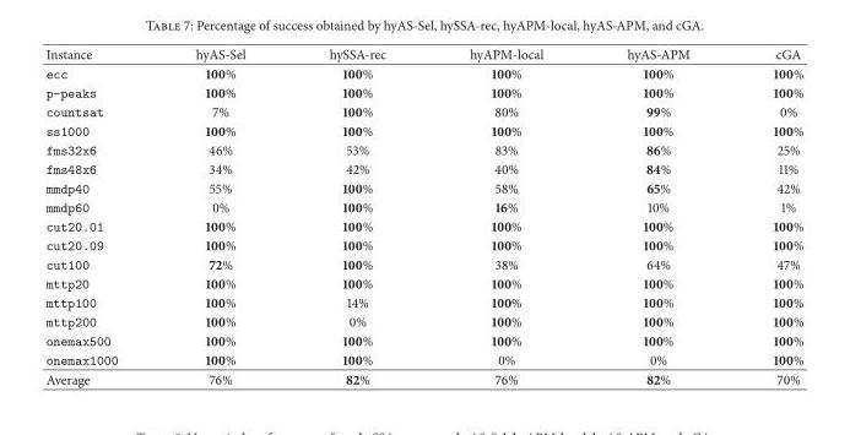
<table><thead><tr><td>Instance</td><td>hyAS-Sel</td><td>hySSA-rec</td><td>hyAPM-local</td><td>hyAS-APM</td><td>cGA</td></tr></thead><tbody><tr><td>ecc</td><td>100%</td><td>100%</td><td>100%</td><td>100%</td><td>100%</td></tr><tr><td>p-peaks</td><td>100%</td><td>100%</td><td>100%</td><td>100%</td><td>100%</td></tr><tr><td>countsat</td><td>7%</td><td>100%</td><td>80%</td><td>99%</td><td>0%</td></tr><tr><td>ss1000</td><td>100%</td><td>100%</td><td>100%</td><td>100%</td><td>100%</td></tr><tr><td>fms32x6</td><td>46%</td><td>53%</td><td>83%</td><td>86%</td><td>25%</td></tr><tr><td>fms48x6</td><td>34%</td><td>42%</td><td>40%</td><td>84%</td><td>11%</td></tr><tr><td>mmdp40</td><td>55%</td><td>100%</td><td>58%</td><td>65%</td><td>42%</td></tr><tr><td>mmdp60</td><td>0%</td><td>100%</td><td>16%</td><td>10%</td><td>1%</td></tr><tr><td>cut20.01</td><td>100%</td><td>100%</td><td>100%</td><td>100%</td><td>100%</td></tr><tr><td>cut20.09</td><td>100%</td><td>100%</td><td>100%</td><td>100%</td><td>100%</td></tr><tr><td>cut100</td><td>72%</td><td>100%</td><td>38%</td><td>64%</td><td>47%</td></tr><tr><td>mttp20</td><td>100%</td><td>100%</td><td>100%</td><td>100%</td><td>100%</td></tr><tr><td>mttp100</td><td>100%</td><td>14%</td><td>100%</td><td>100%</td><td>100%</td></tr><tr><td>mttp200</td><td>100%</td><td>0%</td><td>100%</td><td>100%</td><td>100%</td></tr><tr><td>onemax500</td><td>100%</td><td>100%</td><td>100%</td><td>100%</td><td>100%</td></tr><tr><td>onemax1000</td><td>100%</td><td>100%</td><td>0%</td><td>0%</td><td>100%</td></tr><tr><td>Average</td><td>76%</td><td>82%</td><td>76%</td><td>82%</td><td>70%</td></tr></tbody></table>